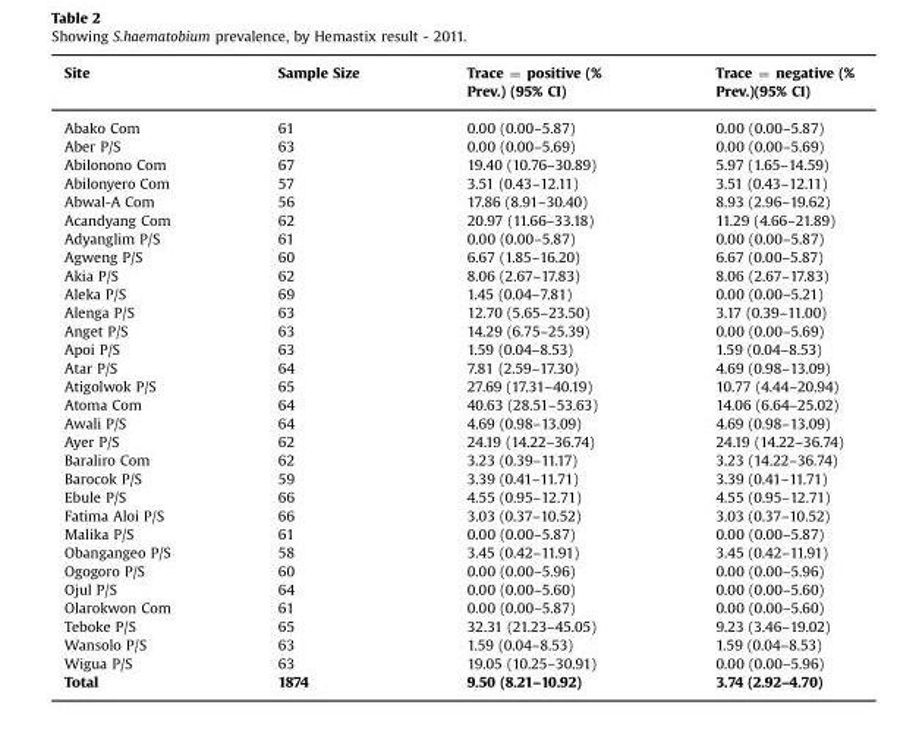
<table><thead><tr><td>Site</td><td>Sample Size</td><td>Trace = positive (% Prev.) (95% CI)</td><td>Trace = negative (% Prev.)(95% CI)</td></tr></thead><tbody><tr><td>Abako Com</td><td>61</td><td>0.00 (0.00–5.87)</td><td>0.00 (0.00–5.87)</td></tr><tr><td>Aber P/S</td><td>63</td><td>0.00 (0.00–5.69)</td><td>0.00 (0.00–5.69)</td></tr><tr><td>Abilonono Com</td><td>67</td><td>19.40 (10.76–30.89)</td><td>5.97 (1.65–14.59)</td></tr><tr><td>Abilonyero Com</td><td>57</td><td>3.51 (0.43–12.11)</td><td>3.51 (0.43–12.11)</td></tr><tr><td>Abwal-A Com</td><td>56</td><td>17.86 (8.91–30.40)</td><td>8.93 (2.96–19.62)</td></tr><tr><td>Acandyang Com</td><td>62</td><td>20.97 (11.66–33.18)</td><td>11.29 (4.66–21.89)</td></tr><tr><td>Adyanglim P/S</td><td>61</td><td>0.00 (0.00–5.87)</td><td>0.00 (0.00–5.87)</td></tr><tr><td>Agweng P/S</td><td>60</td><td>6.67 (1.85–16.20)</td><td>6.67 (0.00–5.87)</td></tr><tr><td>Akia P/S</td><td>62</td><td>8.06 (2.67–17.83)</td><td>8.06 (2.67–17.83)</td></tr><tr><td>Aleka P/S</td><td>69</td><td>1.45 (0.04–7.81)</td><td>0.00 (0.00–5.21)</td></tr><tr><td>Alenga P/S</td><td>63</td><td>12.70 (5.65–23.50)</td><td>3.17 (0.39–11.00)</td></tr><tr><td>Anget P/S</td><td>63</td><td>14.29 (6.75–25.39)</td><td>0.00 (0.00–5.69)</td></tr><tr><td>Apoi P/S</td><td>63</td><td>1.59 (0.04–8.53)</td><td>1.59 (0.04–8.53)</td></tr><tr><td>Atar P/S</td><td>64</td><td>7.81 (2.59–17.30)</td><td>4.69 (0.98–13.09)</td></tr><tr><td>Atigolwok P/S</td><td>65</td><td>27.69 (17.31–40.19)</td><td>10.77 (4.44–20.94)</td></tr><tr><td>Atoma Com</td><td>64</td><td>40.63 (28.51–53.63)</td><td>14.06 (6.64–25.02)</td></tr><tr><td>Awali P/S</td><td>64</td><td>4.69 (0.98–13.09)</td><td>4.69 (0.98–13.09)</td></tr><tr><td>Ayer P/S</td><td>62</td><td>24.19 (14.22–36.74)</td><td>24.19 (14.22–36.74)</td></tr><tr><td>Baraliro Com</td><td>62</td><td>3.23 (0.39–11.17)</td><td>3.23 (14.22–36.74)</td></tr><tr><td>Barocok P/S</td><td>59</td><td>3.39 (0.41–11.71)</td><td>3.39 (0.41–11.71)</td></tr><tr><td>Ebule P/S</td><td>66</td><td>4.55 (0.95–12.71)</td><td>4.55 (0.95–12.71)</td></tr><tr><td>Fatima Aloi P/S</td><td>66</td><td>3.03 (0.37–10.52)</td><td>3.03 (0.37–10.52)</td></tr><tr><td>Malika P/S</td><td>61</td><td>0.00 (0.00–5.87)</td><td>0.00 (0.00–5.87)</td></tr><tr><td>Obangangeo P/S</td><td>58</td><td>3.45 (0.42–11.91)</td><td>3.45 (0.42–11.91)</td></tr><tr><td>Ogogoro P/S</td><td>60</td><td>0.00 (0.00–5.96)</td><td>0.00 (0.00–5.96)</td></tr><tr><td>Ojul P/S</td><td>64</td><td>0.00 (0.00–5.60)</td><td>0.00 (0.00–5.60)</td></tr><tr><td>Olarokwon Com</td><td>61</td><td>0.00 (0.00–5.87)</td><td>0.00 (0.00–5.60)</td></tr><tr><td>Teboke P/S</td><td>65</td><td>32.31 (21.23–45.05)</td><td>9.23 (3.46–19.02)</td></tr><tr><td>Wansolo P/S</td><td>63</td><td>1.59 (0.04–8.53)</td><td>1.59 (0.04–8.53)</td></tr><tr><td>Wigua P/S</td><td>63</td><td>19.05 (10.25–30.91)</td><td>0.00 (0.00–5.96)</td></tr><tr><td>Total</td><td>1874</td><td>9.50 (8.21–10.92)</td><td>3.74 (2.92–4.70)</td></tr></tbody></table>